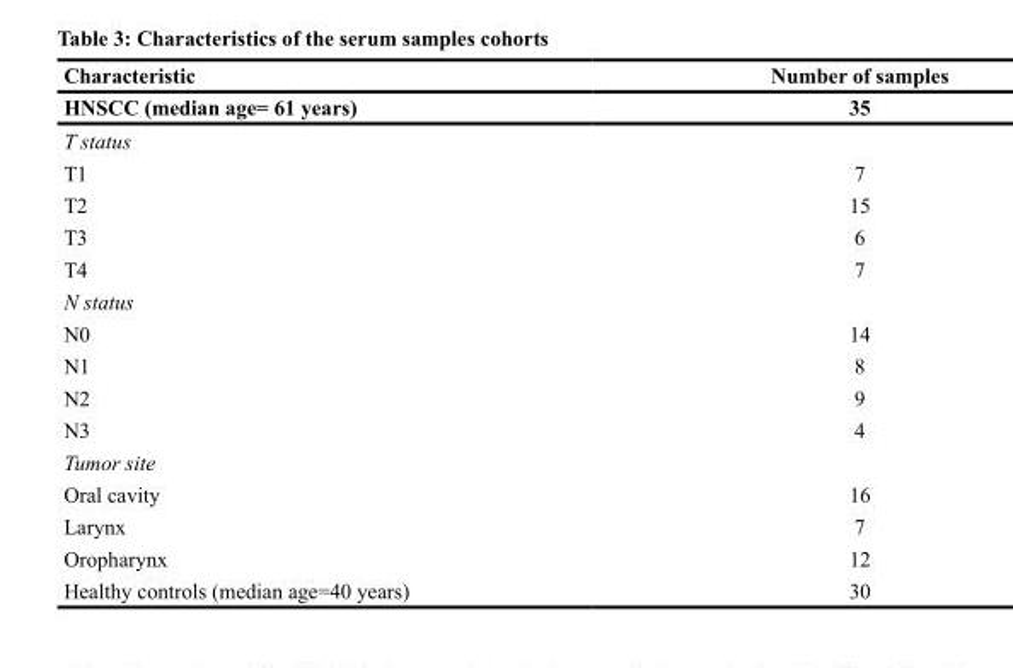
<table><thead><tr><td rowspan="2">Characteristic HNSCC (median age= 61 years)</td><td rowspan="2">Number of samples 35</td></tr><tr></tr></thead><tbody><tr><td colspan="2">T status</td></tr><tr><td>T1</td><td>7</td></tr><tr><td>T2</td><td>15</td></tr><tr><td>T3</td><td>6</td></tr><tr><td>T4</td><td>7</td></tr><tr><td colspan="2">N status</td></tr><tr><td>N0</td><td>14</td></tr><tr><td>N1</td><td>8</td></tr><tr><td>N2</td><td>9</td></tr><tr><td>N3</td><td>4</td></tr><tr><td colspan="2">Tumor site</td></tr><tr><td>Oral cavity</td><td>16</td></tr><tr><td>Larynx</td><td>7</td></tr><tr><td>Oropharynx</td><td>12</td></tr><tr><td>Healthy controls (median age=40 years)</td><td>30</td></tr></tbody></table>